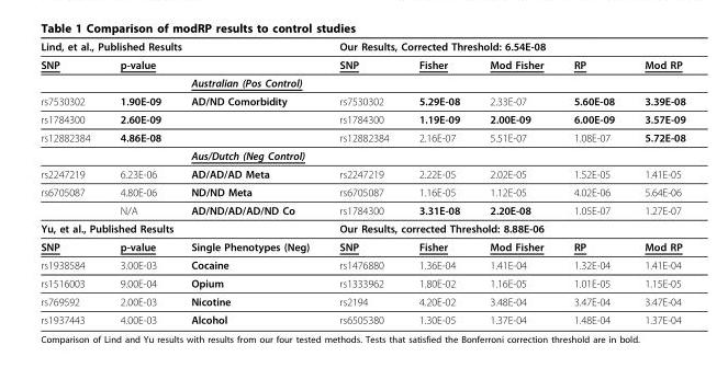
<table><thead><tr><td colspan="3">Lind, et al., Published Results</td><td colspan="5">Our Results, Corrected Threshold: 6.54E-08</td></tr><tr><td>SNP</td><td>p-value</td><td></td><td>SNP</td><td>Fisher</td><td>Mod Fisher</td><td>RP</td><td>Mod RP</td></tr></thead><tbody><tr><td></td><td></td><td>Australian (Pos Control)</td><td></td><td></td><td></td><td></td><td></td></tr><tr><td>rs7530302</td><td>1.90E-09</td><td>AD/ND Comorbidity</td><td>rs7530302</td><td>5.29E-08</td><td>2.33E-07</td><td>5.60E-08</td><td>3.39E-08</td></tr><tr><td>rs1784300</td><td>2.60E-09</td><td></td><td>rs1784300</td><td>1.19E-09</td><td>2.00E-09</td><td>6.00E-09</td><td>3.57E-09</td></tr><tr><td rowspan="2">rs12882384</td><td>4.86E-08</td><td></td><td>rs12882384</td><td>2.16E-07</td><td>5.51E-07</td><td>1.08E-07</td><td>5.72E-08</td></tr><tr><td></td><td>Aus/Dutch (Neg Control)</td><td></td><td></td><td></td><td></td><td></td></tr><tr><td>rs2247219</td><td>6.23E-06</td><td>AD/AD/AD Meta</td><td>rs2247219</td><td>2.22E-05</td><td>2.02E-05</td><td>1.52E-05</td><td>1.41E-05</td></tr><tr><td rowspan="2">rs6705087</td><td>4.80E-06</td><td>ND/ND Meta</td><td>rs6705087</td><td>1.16E-05</td><td>1.12E-05</td><td>4.02E-06</td><td>5.64E-06</td></tr><tr><td>N/A</td><td>AD/ND/AD/AD/ND Co</td><td>rs1784300</td><td>3.31E-08</td><td>2.20E-08</td><td>1.05E-07</td><td>1.27E-07</td></tr><tr><td colspan="3">Yu, et al., Published Results</td><td colspan="5">Our Results, corrected Threshold: 8.88E-06</td></tr><tr><td>SNP</td><td>p-value</td><td>Single Phenotypes (Neg)</td><td>SNP</td><td>Fisher</td><td>Mod Fisher</td><td>RP</td><td>Mod RP</td></tr><tr><td>rs1938584</td><td>3.00E-03</td><td>Cocaine</td><td>rs1476880</td><td>1.36E-04</td><td>1.41E-04</td><td>1.32E-04</td><td>1.41E-04</td></tr><tr><td>rs1516003</td><td>9.00E-04</td><td>Opium</td><td>rs1333962</td><td>1.80E-02</td><td>1.16E-05</td><td>1.01E-05</td><td>1.15E-05</td></tr><tr><td>rs769592</td><td>2.00E-03</td><td>Nicotine</td><td>rs2194</td><td>4.20E-02</td><td>3.48E-04</td><td>3.47E-04</td><td>3.47E-04</td></tr><tr><td>rs1937443</td><td>4.00E-03</td><td>Alcohol</td><td>rs6505380</td><td>1.30E-05</td><td>1.37E-04</td><td>1.48E-04</td><td>1.37E-04</td></tr></tbody></table>